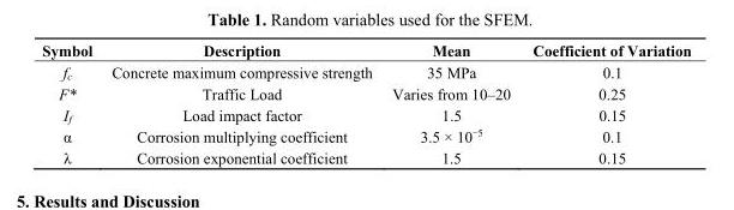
<table><thead><tr><td>Symbol</td><td>Description</td><td>Mean</td><td>Coefficient of Variation</td></tr></thead><tbody><tr><td>f<sub>c</sub></td><td>Concrete maximum compressive strength</td><td>35 MPa</td><td>0.1</td></tr><tr><td>F*</td><td>Traffic Load</td><td>Varies from 10–20</td><td>0.25</td></tr><tr><td>I<sub>f</sub></td><td>Load impact factor</td><td>1.5</td><td>0.15</td></tr><tr><td>α</td><td>Corrosion multiplying coefficient</td><td>3.5 × 10<sup>−5</sup></td><td>0.1</td></tr><tr><td>λ</td><td>Corrosion exponential coefficient</td><td>1.5</td><td>0.15</td></tr></tbody></table>